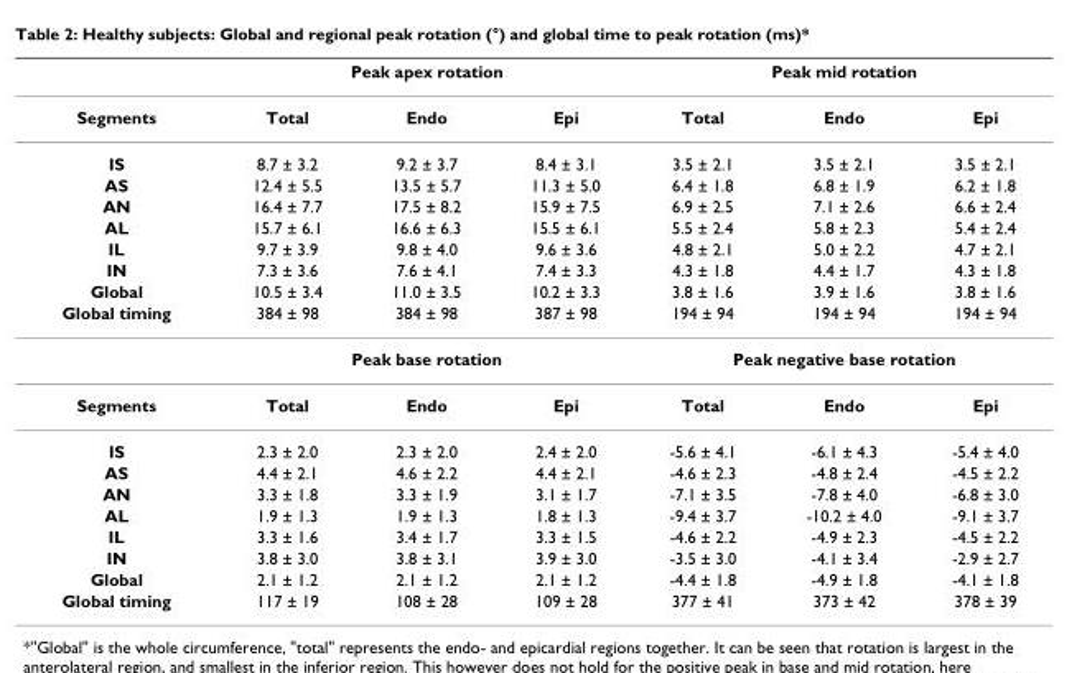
<table><thead><tr><td rowspan="2">Segments</td><td colspan="3">Peak apex rotation</td><td colspan="3">Peak mid rotation</td></tr><tr><td>Total</td><td>Endo</td><td>Epi</td><td>Total</td><td>Endo</td><td>Epi</td></tr></thead><tbody><tr><td>IS</td><td>8.7 ± 3.2</td><td>9.2 ± 3.7</td><td>8.4 ± 3.1</td><td>3.5 ± 2.1</td><td>3.5 ± 2.1</td><td>3.5 ± 2.1</td></tr><tr><td>AS</td><td>12.4 ± 5.5</td><td>13.5 ± 5.7</td><td>11.3 ± 5.0</td><td>6.4 ± 1.8</td><td>6.8 ± 1.9</td><td>6.2 ± 1.8</td></tr><tr><td>AN</td><td>16.4 ± 7.7</td><td>17.5 ± 8.2</td><td>15.9 ± 7.5</td><td>6.9 ± 2.5</td><td>7.1 ± 2.6</td><td>6.6 ± 2.4</td></tr><tr><td>AL</td><td>15.7 ± 6.1</td><td>16.6 ± 6.3</td><td>15.5 ± 6.1</td><td>5.5 ± 2.4</td><td>5.8 ± 2.3</td><td>5.4 ± 2.4</td></tr><tr><td>IL</td><td>9.7 ± 3.9</td><td>9.8 ± 4.0</td><td>9.6 ± 3.6</td><td>4.8 ± 2.1</td><td>5.0 ± 2.2</td><td>4.7 ± 2.1</td></tr><tr><td>IN</td><td>7.3 ± 3.6</td><td>7.6 ± 4.1</td><td>7.4 ± 3.3</td><td>4.3 ± 1.8</td><td>4.4 ± 1.7</td><td>4.3 ± 1.8</td></tr><tr><td>Global</td><td>10.5 ± 3.4</td><td>11.0 ± 3.5</td><td>10.2 ± 3.3</td><td>3.8 ± 1.6</td><td>3.9 ± 1.6</td><td>3.8 ± 1.6</td></tr><tr><td rowspan="2">Global timing</td><td>384 ± 98</td><td>384 ± 98</td><td>387 ± 98</td><td>194 ± 94</td><td>194 ± 94</td><td>194 ± 94</td></tr><tr><td colspan="3">Peak base rotation</td><td colspan="3">Peak negative base rotation</td></tr><tr><td>Segments</td><td>Total</td><td>Endo</td><td>Epi</td><td>Total</td><td>Endo</td><td>Epi</td></tr><tr><td>IS</td><td>2.3 ± 2.0</td><td>2.3 ± 2.0</td><td>2.4 ± 2.0</td><td>-5.6 ± 4.1</td><td>-6.1 ± 4.3</td><td>-5.4 ± 4.0</td></tr><tr><td>AS</td><td>4.4 ± 2.1</td><td>4.6 ± 2.2</td><td>4.4 ± 2.1</td><td>-4.6 ± 2.3</td><td>-4.8 ± 2.4</td><td>-4.5 ± 2.2</td></tr><tr><td>AN</td><td>3.3 ± 1.8</td><td>3.3 ± 1.9</td><td>3.1 ± 1.7</td><td>-7.1 ± 3.5</td><td>-7.8 ± 4.0</td><td>-6.8 ± 3.0</td></tr><tr><td>AL</td><td>1.9 ± 1.3</td><td>1.9 ± 1.3</td><td>1.8 ± 1.3</td><td>-9.4 ± 3.7</td><td>-10.2 ± 4.0</td><td>-9.1 ± 3.7</td></tr><tr><td>IL</td><td>3.3 ± 1.6</td><td>3.4 ± 1.7</td><td>3.3 ± 1.5</td><td>-4.6 ± 2.2</td><td>-4.9 ± 2.3</td><td>-4.5 ± 2.2</td></tr><tr><td>IN</td><td>3.8 ± 3.0</td><td>3.8 ± 3.1</td><td>3.9 ± 3.0</td><td>-3.5 ± 3.0</td><td>-4.1 ± 3.4</td><td>-2.9 ± 2.7</td></tr><tr><td>Global</td><td>2.1 ± 1.2</td><td>2.1 ± 1.2</td><td>2.1 ± 1.2</td><td>-4.4 ± 1.8</td><td>-4.9 ± 1.8</td><td>-4.1 ± 1.8</td></tr><tr><td>Global timing</td><td>117 ± 19</td><td>108 ± 28</td><td>109 ± 28</td><td>377 ± 41</td><td>373 ± 42</td><td>378 ± 39</td></tr></tbody></table>